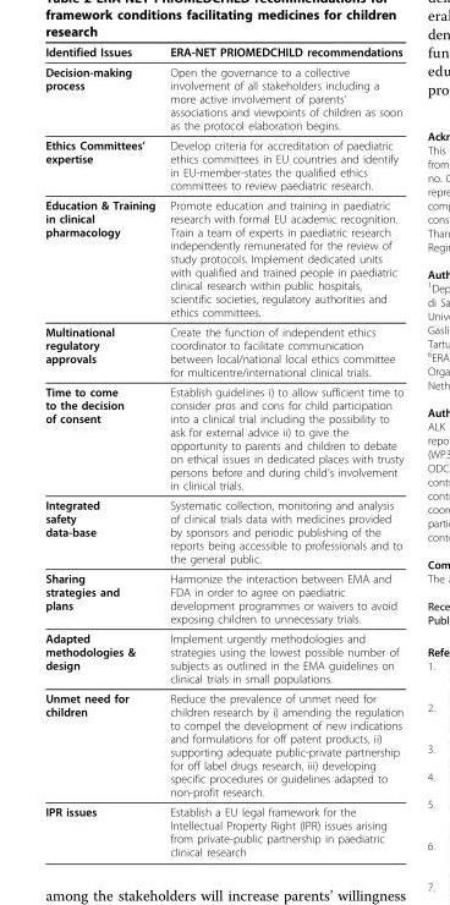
<table><thead><tr><td>Identified Issues</td><td>ERA-NET PRIOMEDCHILD recommendations</td></tr></thead><tbody><tr><td>Decision-making process</td><td>Open the governance to a collective involvement of all stakeholders including a more active involvement of parents’ associations and viewpoints of children as soon as the protocol elaboration begins.</td></tr><tr><td>Ethics Committees’ expertise</td><td>Develop criteria for accreditation of paediatric ethics committees in EU countries and identify in EU-member-states the qualified ethics committees to review paediatric research.</td></tr><tr><td>Education &amp; Training in clinical pharmacology</td><td>Promote education and training in paediatric research with formal EU academic recognition. Train a team of experts in paediatric research independently remunerated for the review of study protocols. Implement dedicated units with qualified and trained people in paediatric clinical research within public hospitals, scientific societies, regulatory authorities and ethics committees.</td></tr><tr><td>Multinational regulatory approvals</td><td>Create the function of independent ethics coordinator to facilitate communication between local/national local ethics committee for multicentre/international clinical trials.</td></tr><tr><td>Time to come to the decision of consent</td><td>Establish guidelines i) to allow sufficient time to consider pros and cons for child participation into a clinical trial including the possibility to ask for external advice ii) to give the opportunity to parents and children to debate on ethical issues in dedicated places with trusty persons before and during child’s involvement in clinical trials.</td></tr><tr><td>Integrated safety data-base</td><td>Systematic collection, monitoring and analysis of clinical trials data with medicines provided by sponsors and periodic publishing of the reports being accessible to professionals and to the general public.</td></tr><tr><td>Sharing strategies and plans</td><td>Harmonize the interaction between EMA and FDA in order to agree on paediatric development programmes or waivers to avoid exposing children to unnecessary trials.</td></tr><tr><td>Adapted methodologies &amp; design</td><td>Implement urgently methodologies and strategies using the lowest possible number of subjects as outlined in the EMA guidelines on clinical trials in small populations.</td></tr><tr><td>Unmet need for children</td><td>Reduce the prevalence of unmet need for children research by i) amending the regulation to compel the development of new indications and formulations for off patent products, ii) supporting adequate public-private partnership for off label drugs research, iii) developing specific procedures or guidelines adapted to non-profit research.</td></tr><tr><td>IPR issues</td><td>Establish a EU legal framework for the Intellectual Property Right (IPR) issues arising from private-public partnership in paediatric clinical research</td></tr></tbody></table>